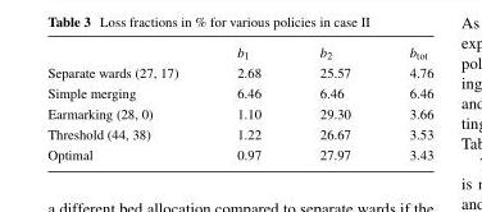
<table><thead><tr><td></td><td>b<sub>1</sub></td><td>b<sub>2</sub></td><td>b<sub>tot</sub></td></tr></thead><tbody><tr><td>Separate wards (27, 17)</td><td>2.68</td><td>25.57</td><td>4.76</td></tr><tr><td>Simple merging</td><td>6.46</td><td>6.46</td><td>6.46</td></tr><tr><td>Earmarking (28, 0)</td><td>1.10</td><td>29.30</td><td>3.66</td></tr><tr><td>Threshold (44, 38)</td><td>1.22</td><td>26.67</td><td>3.53</td></tr><tr><td>Optimal</td><td>0.97</td><td>27.97</td><td>3.43</td></tr></tbody></table>